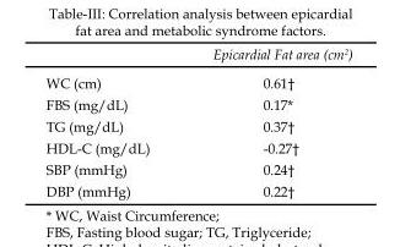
<table><thead><tr><td></td><td>Epicardial Fat area (cm<sup>2</sup>)</td></tr></thead><tbody><tr><td>WC (cm)</td><td>0.61<sup>†</sup></td></tr><tr><td>FBS (mg/dL)</td><td>0.17*</td></tr><tr><td>TG (mg/dL)</td><td>0.37<sup>†</sup></td></tr><tr><td>HDL-C (mg/dL)</td><td>-0.27<sup>†</sup></td></tr><tr><td>SBP (mmHg)</td><td>0.24<sup>†</sup></td></tr><tr><td>DBP (mmHg)</td><td>0.22<sup>†</sup></td></tr></tbody></table>